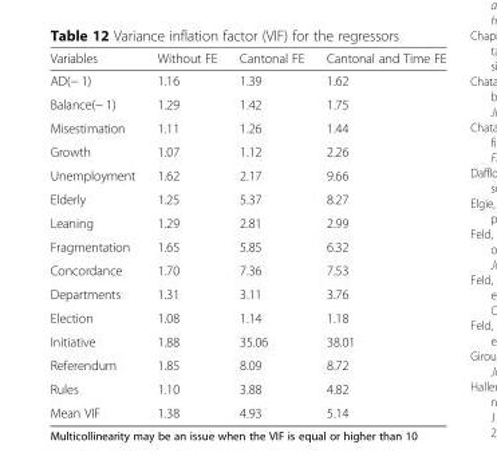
<table><thead><tr><td>Variables</td><td>Without FE</td><td>Cantonal FE</td><td>Cantonal and Time FE</td></tr></thead><tbody><tr><td>AD(− 1)</td><td>1.16</td><td>1.39</td><td>1.62</td></tr><tr><td>Balance(− 1)</td><td>1.29</td><td>1.42</td><td>1.75</td></tr><tr><td>Misestimation</td><td>1.11</td><td>1.26</td><td>1.44</td></tr><tr><td>Growth</td><td>1.07</td><td>1.12</td><td>2.26</td></tr><tr><td>Unemployment</td><td>1.62</td><td>2.17</td><td>9.66</td></tr><tr><td>Elderly</td><td>1.25</td><td>5.37</td><td>8.27</td></tr><tr><td>Leaning</td><td>1.29</td><td>2.81</td><td>2.99</td></tr><tr><td>Fragmentation</td><td>1.65</td><td>5.85</td><td>6.32</td></tr><tr><td>Concordance</td><td>1.70</td><td>7.36</td><td>7.53</td></tr><tr><td>Departments</td><td>1.31</td><td>3.11</td><td>3.76</td></tr><tr><td>Election</td><td>1.08</td><td>1.14</td><td>1.18</td></tr><tr><td>Initiative</td><td>1.88</td><td>35.06</td><td>38.01</td></tr><tr><td>Referendum</td><td>1.85</td><td>8.09</td><td>8.72</td></tr><tr><td>Rules</td><td>1.10</td><td>3.88</td><td>4.82</td></tr><tr><td>Mean VIF</td><td>1.38</td><td>4.93</td><td>5.14</td></tr></tbody></table>